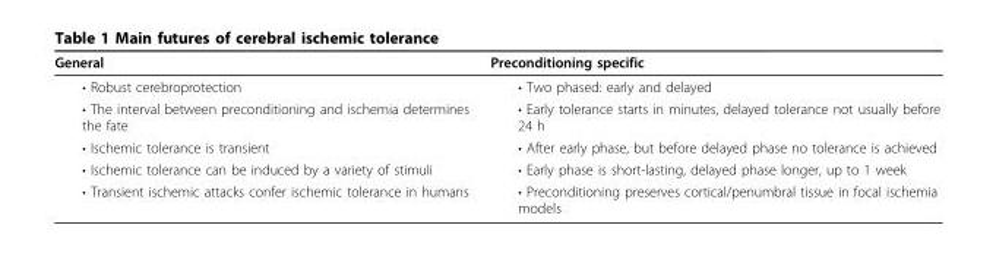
<table><thead><tr><td>General</td><td>Preconditioning specific</td></tr></thead><tbody><tr><td>• Robust cerebroprotection</td><td>• Two phased: early and delayed</td></tr><tr><td>• The interval between preconditioning and ischemia determines the fate</td><td>• Early tolerance starts in minutes, delayed tolerance not usually before 24 h</td></tr><tr><td>• Ischemic tolerance is transient</td><td>• After early phase, but before delayed phase no tolerance is achieved</td></tr><tr><td>• Ischemic tolerance can be induced by a variety of stimuli</td><td>• Early phase is short-lasting, delayed phase longer, up to 1 week</td></tr><tr><td>• Transient ischemic attacks confer ischemic tolerance in humans</td><td>• Preconditioning preserves cortical/penumbral tissue in focal ischemia models</td></tr></tbody></table>